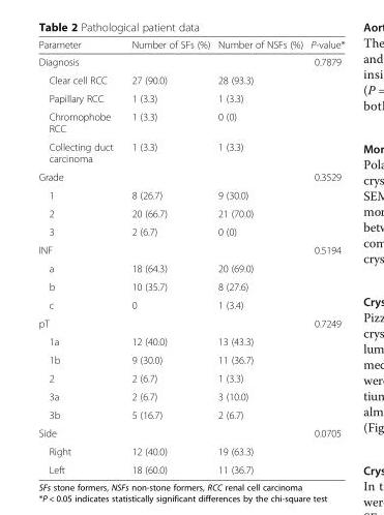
<table><thead><tr><td>Parameter</td><td>Number of SFs (%)</td><td>Number of NSFs (%)</td><td>P-value*</td></tr></thead><tbody><tr><td>Diagnosis</td><td></td><td></td><td>0.7879</td></tr><tr><td>Clear cell RCC</td><td>27 (90.0)</td><td>28 (93.3)</td><td></td></tr><tr><td>Papillary RCC</td><td>1 (3.3)</td><td>1 (3.3)</td><td></td></tr><tr><td>Chromophobe RCC</td><td>1 (3.3)</td><td>0 (0)</td><td></td></tr><tr><td>Collecting duct carcinoma</td><td>1 (3.3)</td><td>1 (3.3)</td><td></td></tr><tr><td>Grade</td><td></td><td></td><td>0.3529</td></tr><tr><td>1</td><td>8 (26.7)</td><td>9 (30.0)</td><td></td></tr><tr><td>2</td><td>20 (66.7)</td><td>21 (70.0)</td><td></td></tr><tr><td>3</td><td>2 (6.7)</td><td>0 (0)</td><td></td></tr><tr><td>INF</td><td></td><td></td><td>0.5194</td></tr><tr><td>a</td><td>18 (64.3)</td><td>20 (69.0)</td><td></td></tr><tr><td>b</td><td>10 (35.7)</td><td>8 (27.6)</td><td></td></tr><tr><td>c</td><td>0</td><td>1 (3.4)</td><td></td></tr><tr><td>pT</td><td></td><td></td><td>0.7249</td></tr><tr><td>1a</td><td>12 (40.0)</td><td>13 (43.3)</td><td></td></tr><tr><td>1b</td><td>9 (30.0)</td><td>11 (36.7)</td><td></td></tr><tr><td>2</td><td>2 (6.7)</td><td>1 (3.3)</td><td></td></tr><tr><td>3a</td><td>2 (6.7)</td><td>3 (10.0)</td><td></td></tr><tr><td>3b</td><td>5 (16.7)</td><td>2 (6.7)</td><td></td></tr><tr><td>Side</td><td></td><td></td><td>0.0705</td></tr><tr><td>Right</td><td>12 (40.0)</td><td>19 (63.3)</td><td></td></tr><tr><td>Left</td><td>18 (60.0)</td><td>11 (36.7)</td><td></td></tr></tbody></table>